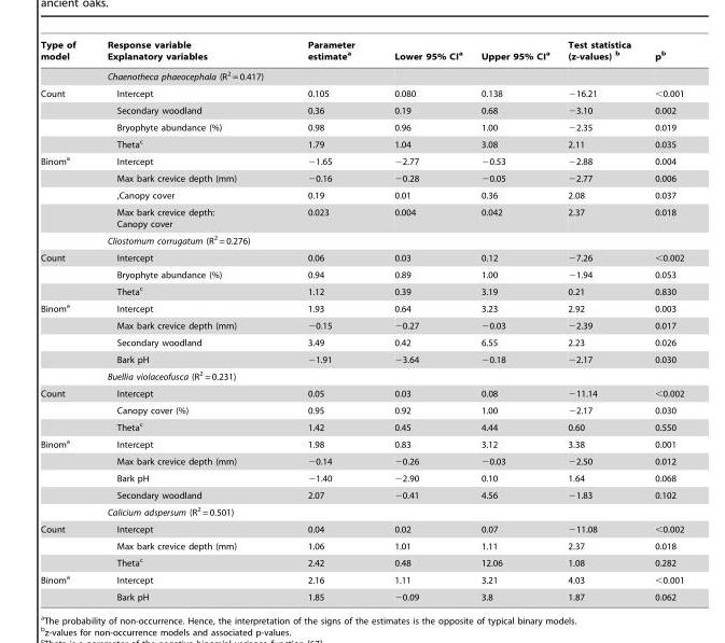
<table><thead><tr><td>Type of model</td><td>Response variable Explanatory variables</td><td>Parameter estimate<sup>a</sup></td><td>Lower 95% CI<sup>a</sup></td><td>Upper 95% CI<sup>a</sup></td><td>Test statistica (z-values) b</td><td>p<sup>b</sup></td></tr></thead><tbody><tr><td></td><td colspan="2">Chaenotheca phaeocephala (R<sup>2</sup> = 0.417)</td><td></td><td></td><td></td><td></td></tr><tr><td rowspan="4">Count</td><td>Intercept</td><td>0.105</td><td>0.080</td><td>0.138</td><td>−16.21</td><td>&lt;0.001</td></tr><tr><td>Secondary woodland</td><td>0.36</td><td>0.19</td><td>0.68</td><td>−3.10</td><td>0.002</td></tr><tr><td>Bryophyte abundance (%)</td><td>0.98</td><td>0.96</td><td>1.00</td><td>−2.35</td><td>0.019</td></tr><tr><td>Theta<sup>c</sup></td><td>1.79</td><td>1.04</td><td>3.08</td><td>2.11</td><td>0.035</td></tr><tr><td rowspan="5">Binom<sup>a</sup></td><td>Intercept</td><td>−1.65</td><td>−2.77</td><td>−0.53</td><td>−2.88</td><td>0.004</td></tr><tr><td>Max bark crevice depth (mm)</td><td>−0.16</td><td>−0.28</td><td>−0.05</td><td>−2.77</td><td>0.006</td></tr><tr><td>,Canopy cover</td><td>0.19</td><td>0.01</td><td>0.36</td><td>2.08</td><td>0.037</td></tr><tr><td>Max bark crevice depth: Canopy cover</td><td>0.023</td><td>0.004</td><td>0.042</td><td>2.37</td><td>0.018</td></tr><tr><td colspan="2">Cliostomum corrugatum (R<sup>2</sup> = 0.276)</td><td></td><td></td><td></td><td></td></tr><tr><td rowspan="3">Count</td><td>Intercept</td><td>0.06</td><td>0.03</td><td>0.12</td><td>−7.26</td><td>&lt;0.002</td></tr><tr><td>Bryophyte abundance (%)</td><td>0.94</td><td>0.89</td><td>1.00</td><td>−1.94</td><td>0.053</td></tr><tr><td>Theta<sup>c</sup></td><td>1.12</td><td>0.39</td><td>3.19</td><td>0.21</td><td>0.830</td></tr><tr><td rowspan="5">Binom<sup>a</sup></td><td>Intercept</td><td>1.93</td><td>0.64</td><td>3.23</td><td>2.92</td><td>0.003</td></tr><tr><td>Max bark crevice depth (mm)</td><td>−0.15</td><td>−0.27</td><td>−0.03</td><td>−2.39</td><td>0.017</td></tr><tr><td>Secondary woodland</td><td>3.49</td><td>0.42</td><td>6.55</td><td>2.23</td><td>0.026</td></tr><tr><td>Bark pH</td><td>−1.91</td><td>−3.64</td><td>−0.18</td><td>−2.17</td><td>0.030</td></tr><tr><td colspan="2">Buellia violaceofusca (R<sup>2</sup> = 0.231)</td><td></td><td></td><td></td><td></td></tr><tr><td rowspan="3">Count</td><td>Intercept</td><td>0.05</td><td>0.03</td><td>0.08</td><td>−11.14</td><td>&lt;0.002</td></tr><tr><td>Canopy cover (%)</td><td>0.95</td><td>0.92</td><td>1.00</td><td>−2.17</td><td>0.030</td></tr><tr><td>Theta<sup>c</sup></td><td>1.42</td><td>0.45</td><td>4.44</td><td>0.60</td><td>0.550</td></tr><tr><td rowspan="5">Binom<sup>a</sup></td><td>Intercept</td><td>1.98</td><td>0.83</td><td>3.12</td><td>3.38</td><td>0.001</td></tr><tr><td>Max bark crevice depth (mm)</td><td>−0.14</td><td>−0.26</td><td>−0.03</td><td>−2.50</td><td>0.012</td></tr><tr><td>Bark pH</td><td>−1.40</td><td>−2.90</td><td>0.10</td><td>1.64</td><td>0.068</td></tr><tr><td>Secondary woodland</td><td>2.07</td><td>−0.41</td><td>4.56</td><td>−1.83</td><td>0.102</td></tr><tr><td colspan="2">Calicium adspersum (R<sup>2</sup> = 0.501)</td><td></td><td></td><td></td><td></td></tr><tr><td rowspan="3">Count</td><td>Intercept</td><td>0.04</td><td>0.02</td><td>0.07</td><td>−11.08</td><td>&lt;0.002</td></tr><tr><td>Max bark crevice depth (mm)</td><td>1.06</td><td>1.01</td><td>1.11</td><td>2.37</td><td>0.018</td></tr><tr><td>Theta<sup>c</sup></td><td>2.42</td><td>0.48</td><td>12.06</td><td>1.08</td><td>0.282</td></tr><tr><td rowspan="2">Binom<sup>a</sup></td><td>Intercept</td><td>2.16</td><td>1.11</td><td>3.21</td><td>4.03</td><td>&lt;0.001</td></tr><tr><td>Bark pH</td><td>1.85</td><td>−0.09</td><td>3.8</td><td>1.87</td><td>0.062</td></tr></tbody></table>